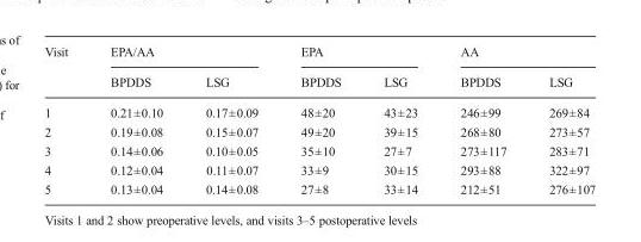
<table><thead><tr><td rowspan="2">Visit</td><td colspan="2">EPA/AA</td><td colspan="2">EPA</td><td colspan="2">AA</td></tr><tr><td>BPDDS</td><td>LSG</td><td>BPDDS</td><td>LSG</td><td>BPDDS</td><td>LSG</td></tr></thead><tbody><tr><td>1</td><td>0.21±0.10</td><td>0.17±0.09</td><td>48±20</td><td>43±23</td><td>246±99</td><td>269±84</td></tr><tr><td>2</td><td>0.19±0.08</td><td>0.15±0.07</td><td>49±20</td><td>39±15</td><td>268±80</td><td>273±57</td></tr><tr><td>3</td><td>0.14±0.06</td><td>0.10±0.05</td><td>35±10</td><td>27±7</td><td>273±117</td><td>283±71</td></tr><tr><td>4</td><td>0.12±0.04</td><td>0.11±0.07</td><td>33±9</td><td>30±15</td><td>293±88</td><td>322±97</td></tr><tr><td>5</td><td>0.13±0.04</td><td>0.14±0.08</td><td>27±8</td><td>33±14</td><td>212±51</td><td>276±107</td></tr></tbody></table>